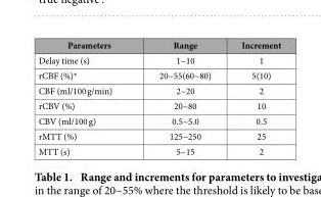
<table><thead><tr><td>Parameters</td><td>Range</td><td>Increment</td></tr></thead><tbody><tr><td>Delay time (s)</td><td>1~10</td><td>1</td></tr><tr><td>rCBF (%)*</td><td>20~55(60~80)</td><td>5(10)</td></tr><tr><td>CBF (ml/100 g/min)</td><td>2~20</td><td>2</td></tr><tr><td>rCBV (%)</td><td>20~80</td><td>10</td></tr><tr><td>CBV (ml/100 g)</td><td>0.5~5.0</td><td>0.5</td></tr><tr><td>rMTT (%)</td><td>125~250</td><td>25</td></tr><tr><td>MTT (s)</td><td>5~15</td><td>2</td></tr></tbody></table>